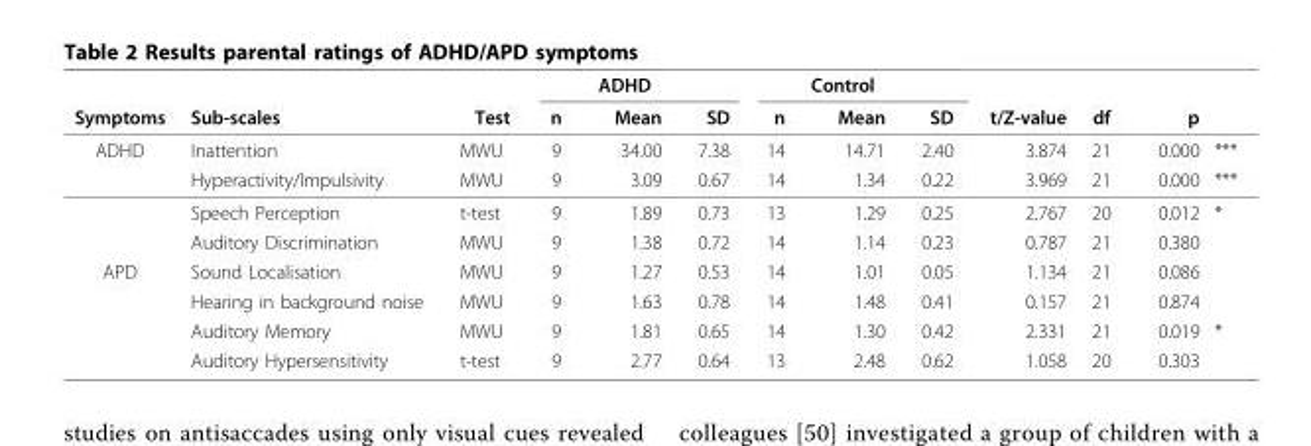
<table><thead><tr><td rowspan="2">Symptoms</td><td rowspan="2">Sub-scales</td><td rowspan="2">Test</td><td rowspan="2">n</td><td rowspan="2">ADHD Mean</td><td rowspan="2">SD</td><td rowspan="2">n</td><td rowspan="2">Control Mean</td><td rowspan="2">SD</td><td rowspan="2">t/Z-value</td><td rowspan="2">df</td><td rowspan="2">p</td><td rowspan="2"></td></tr><tr></tr></thead><tbody><tr><td rowspan="4">ADHD</td><td>Inattention</td><td>MWU</td><td>9</td><td>34.00</td><td>7.38</td><td>14</td><td>14.71</td><td>2.40</td><td>3.874</td><td>21</td><td>0.000</td><td>***</td></tr><tr><td>Hyperactivity/Impulsivity</td><td>MWU</td><td>9</td><td>3.09</td><td>0.67</td><td>14</td><td>1.34</td><td>0.22</td><td>3.969</td><td>21</td><td>0.000</td><td>***</td></tr><tr><td>Speech Perception</td><td>t-test</td><td>9</td><td>1.89</td><td>0.73</td><td>13</td><td>1.29</td><td>0.25</td><td>2.767</td><td>20</td><td>0.012</td><td>*</td></tr><tr><td>Auditory Discrimination</td><td>MWU</td><td>9</td><td>1.38</td><td>0.72</td><td>14</td><td>1.14</td><td>0.23</td><td>0.787</td><td>21</td><td>0.380</td><td></td></tr><tr><td rowspan="4">APD</td><td>Sound Localisation</td><td>MWU</td><td>9</td><td>1.27</td><td>0.53</td><td>14</td><td>1.01</td><td>0.05</td><td>1.134</td><td>21</td><td>0.086</td><td></td></tr><tr><td>Hearing in background noise</td><td>MWU</td><td>9</td><td>1.63</td><td>0.78</td><td>14</td><td>1.48</td><td>0.41</td><td>0.157</td><td>21</td><td>0.874</td><td></td></tr><tr><td>Auditory Memory</td><td>MWU</td><td>9</td><td>1.81</td><td>0.65</td><td>14</td><td>1.30</td><td>0.42</td><td>2.331</td><td>21</td><td>0.019</td><td>*</td></tr><tr><td>Auditory Hypersensitivity</td><td>t-test</td><td>9</td><td>2.77</td><td>0.64</td><td>13</td><td>2.48</td><td>0.62</td><td>1.058</td><td>20</td><td>0.303</td><td></td></tr></tbody></table>